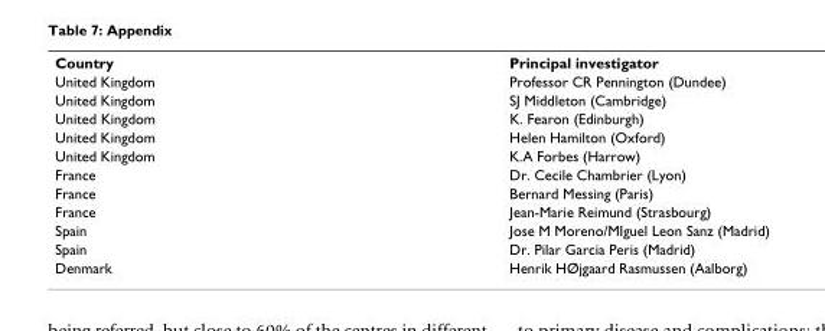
<table><tbody><tr><td>Country</td><td>Principal investigator</td></tr><tr><td>United Kingdom</td><td>Professor CR Pennington (Dundee)</td></tr><tr><td>United Kingdom</td><td>SJ Middleton (Cambridge)</td></tr><tr><td>United Kingdom</td><td>K. Fearon (Edinburgh)</td></tr><tr><td>United Kingdom</td><td>Helen Hamilton (Oxford)</td></tr><tr><td>United Kingdom</td><td>K.A Forbes (Harrow)</td></tr><tr><td>France</td><td>Dr. Cecile Chambrier (Lyon)</td></tr><tr><td>France</td><td>Bernard Messing (Paris)</td></tr><tr><td>France</td><td>Jean-Marie Reimund (Strasbourg)</td></tr><tr><td>Spain</td><td>Jose M Moreno/MIguel Leon Sanz (Madrid)</td></tr><tr><td>Spain</td><td>Dr. Pilar Garcia Peris (Madrid)</td></tr><tr><td>Denmark</td><td>Henrik HØjgaard Rasmussen (Aalborg)</td></tr></tbody></table>